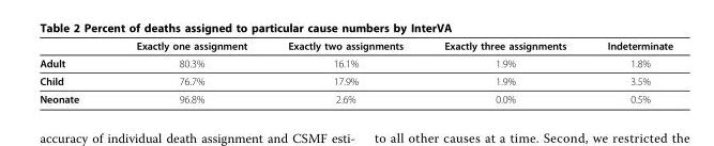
<table><thead><tr><td></td><td>Exactly one assignment</td><td>Exactly two assignments</td><td>Exactly three assignments</td><td>Indeterminate</td></tr></thead><tbody><tr><td>Adult</td><td>80.3%</td><td>16.1%</td><td>1.9%</td><td>1.8%</td></tr><tr><td>Child</td><td>76.7%</td><td>17.9%</td><td>1.9%</td><td>3.5%</td></tr><tr><td>Neonate</td><td>96.8%</td><td>2.6%</td><td>0.0%</td><td>0.5%</td></tr></tbody></table>